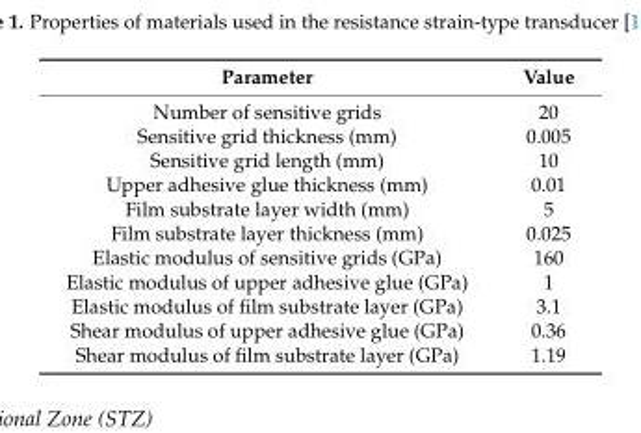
<table><thead><tr><td>Parameter</td><td>Value</td></tr></thead><tbody><tr><td>Number of sensitive grids</td><td>20</td></tr><tr><td>Sensitive grid thickness (mm)</td><td>0.005</td></tr><tr><td>Sensitive grid length (mm)</td><td>10</td></tr><tr><td>Upper adhesive glue thickness (mm)</td><td>0.01</td></tr><tr><td>Film substrate layer width (mm)</td><td>5</td></tr><tr><td>Film substrate layer thickness (mm)</td><td>0.025</td></tr><tr><td>Elastic modulus of sensitive grids (GPa)</td><td>160</td></tr><tr><td>Elastic modulus of upper adhesive glue (GPa)</td><td>1</td></tr><tr><td>Elastic modulus of film substrate layer (GPa)</td><td>3.1</td></tr><tr><td>Shear modulus of upper adhesive glue (GPa)</td><td>0.36</td></tr><tr><td>Shear modulus of film substrate layer (GPa)</td><td>1.19</td></tr></tbody></table>